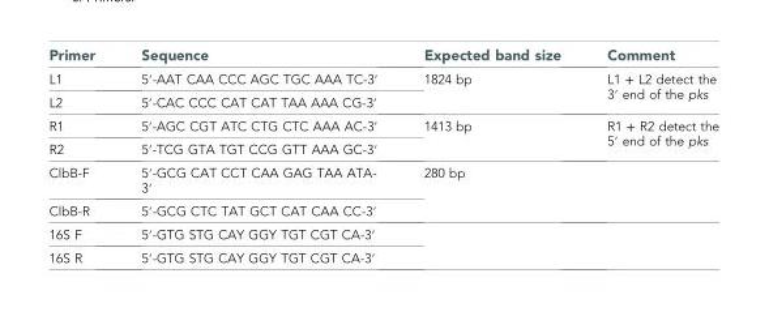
<table><thead><tr><td>Primer</td><td>Sequence</td><td>Expected band size</td><td>Comment</td></tr></thead><tbody><tr><td>L1</td><td>5′-AAT CAA CCC AGC TGC AAA TC-3′</td><td rowspan="2">1824 bp</td><td rowspan="2">L1 + L2 detect the 3′ end of the pks</td></tr><tr><td>L2</td><td>5′-CAC CCC CAT CAT TAA AAA CG-3′</td></tr><tr><td>R1</td><td>5′-AGC CGT ATC CTG CTC AAA AC-3′</td><td rowspan="2">1413 bp</td><td rowspan="2">R1 + R2 detect the 5′ end of the pks</td></tr><tr><td>R2</td><td>5′-TCG GTA TGT CCG GTT AAA GC-3′</td></tr><tr><td>ClbB-F</td><td>5′-GCG CAT CCT CAA GAG TAA ATA- 3′</td><td rowspan="2">280 bp</td><td rowspan="2"></td></tr><tr><td>ClbB-R</td><td>5′-GCG CTC TAT GCT CAT CAA CC-3′</td></tr><tr><td>16S F</td><td>5′-GTG STG CAY GGY TGT CGT CA-3′</td><td rowspan="2"></td><td rowspan="2"></td></tr><tr><td>16S R</td><td>5′-GTG STG CAY GGY TGT CGT CA-3′</td></tr></tbody></table>